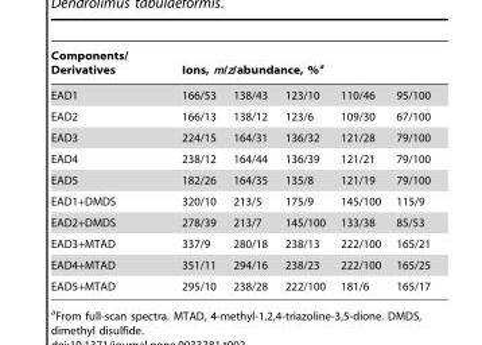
<table><thead><tr><td rowspan="2">Components/ Derivatives EAD1</td><td colspan="5">Ions, m/z/abundance, %<sup>a</sup></td></tr><tr><td>166/53</td><td>138/43</td><td>123/10</td><td>110/46</td><td>95/100</td></tr></thead><tbody><tr><td>EAD2</td><td>166/13</td><td>138/12</td><td>123/6</td><td>109/30</td><td>67/100</td></tr><tr><td>EAD3</td><td>224/15</td><td>164/31</td><td>136/32</td><td>121/28</td><td>79/100</td></tr><tr><td>EAD4</td><td>238/12</td><td>164/44</td><td>136/39</td><td>121/21</td><td>79/100</td></tr><tr><td>EAD5</td><td>182/26</td><td>164/35</td><td>135/8</td><td>121/19</td><td>79/100</td></tr><tr><td>EAD1+DMDS</td><td>320/10</td><td>213/5</td><td>175/9</td><td>145/100</td><td>115/9</td></tr><tr><td>EAD2+DMDS</td><td>278/39</td><td>213/7</td><td>145/100</td><td>133/38</td><td>85/53</td></tr><tr><td>EAD3+MTAD</td><td>337/9</td><td>280/18</td><td>238/13</td><td>222/100</td><td>165/21</td></tr><tr><td>EAD4+MTAD</td><td>351/11</td><td>294/16</td><td>238/23</td><td>222/100</td><td>165/25</td></tr><tr><td>EAD5+MTAD</td><td>295/10</td><td>238/28</td><td>222/100</td><td>181/6</td><td>165/17</td></tr></tbody></table>